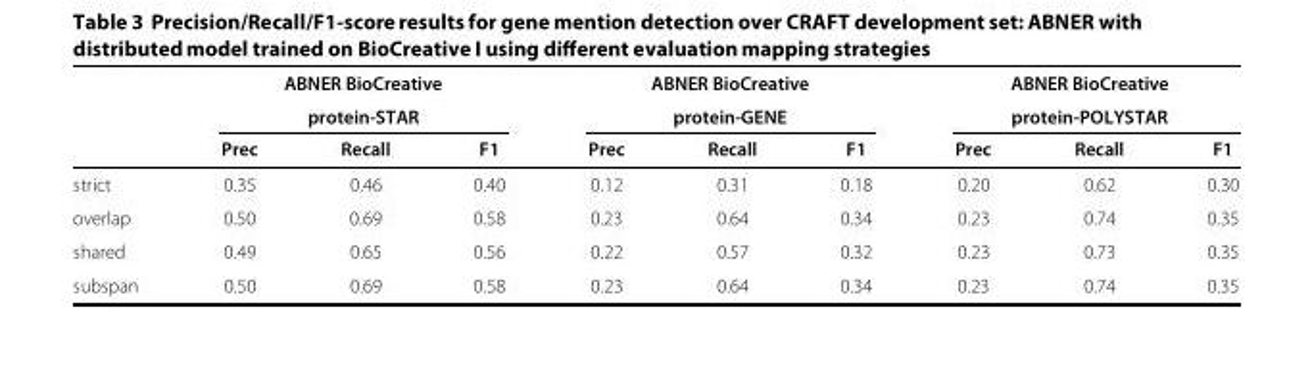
<table><thead><tr><td rowspan="2"></td><td colspan="3">ABNER BioCreative protein-STAR</td><td colspan="3">ABNER BioCreative protein-GENE</td><td colspan="3">ABNER BioCreative protein-POLYSTAR</td></tr><tr><td>Prec</td><td>Recall</td><td>F1</td><td>Prec</td><td>Recall</td><td>F1</td><td>Prec</td><td>Recall</td><td>F1</td></tr></thead><tbody><tr><td>strict</td><td>0.35</td><td>0.46</td><td>0.40</td><td>0.12</td><td>0.31</td><td>0.18</td><td>0.20</td><td>0.62</td><td>0.30</td></tr><tr><td>overlap</td><td>0.50</td><td>0.69</td><td>0.58</td><td>0.23</td><td>0.64</td><td>0.34</td><td>0.23</td><td>0.74</td><td>0.35</td></tr><tr><td>shared</td><td>0.49</td><td>0.65</td><td>0.56</td><td>0.22</td><td>0.57</td><td>0.32</td><td>0.23</td><td>0.73</td><td>0.35</td></tr><tr><td>subspan</td><td>0.50</td><td>0.69</td><td>0.58</td><td>0.23</td><td>0.64</td><td>0.34</td><td>0.23</td><td>0.74</td><td>0.35</td></tr></tbody></table>